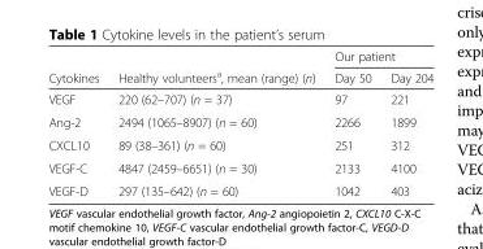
<table><thead><tr><td rowspan="2">Cytokines</td><td rowspan="2">Healthy volunteers<sup>a</sup>, mean (range) (n)</td><td colspan="2">Our patient</td></tr><tr><td>Day 50</td><td>Day 204</td></tr></thead><tbody><tr><td>VEGF</td><td>220 (62–707) (n = 37)</td><td>97</td><td>221</td></tr><tr><td>Ang-2</td><td>2494 (1065–8907) (n = 60)</td><td>2266</td><td>1899</td></tr><tr><td>CXCL10</td><td>89 (38–361) (n = 60)</td><td>251</td><td>312</td></tr><tr><td>VEGF-C</td><td>4847 (2459–6651) (n = 30)</td><td>2133</td><td>4100</td></tr><tr><td>VEGF-D</td><td>297 (135–642) (n = 60)</td><td>1042</td><td>403</td></tr></tbody></table>